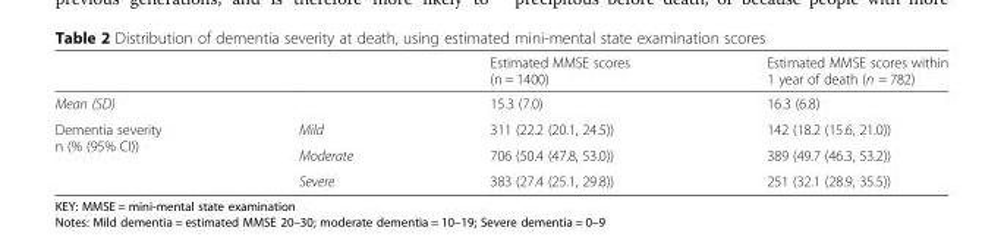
<table><thead><tr><td></td><td></td><td>Estimated MMSE scores (n = 1400)</td><td>Estimated MMSE scores within 1 year of death (n = 782)</td></tr></thead><tbody><tr><td>Mean (SD)</td><td></td><td>15.3 (7.0)</td><td>16.3 (6.8)</td></tr><tr><td rowspan="3">Dementia severity n (% (95% CI))</td><td>Mild</td><td>311 (22.2 (20.1, 24.5))</td><td>142 (18.2 (15.6, 21.0))</td></tr><tr><td>Moderate</td><td>706 (50.4 (47.8, 53.0))</td><td>389 (49.7 (46.3, 53.2))</td></tr><tr><td>Severe</td><td>383 (27.4 (25.1, 29.8))</td><td>251 (32.1 (28.9, 35.5))</td></tr></tbody></table>